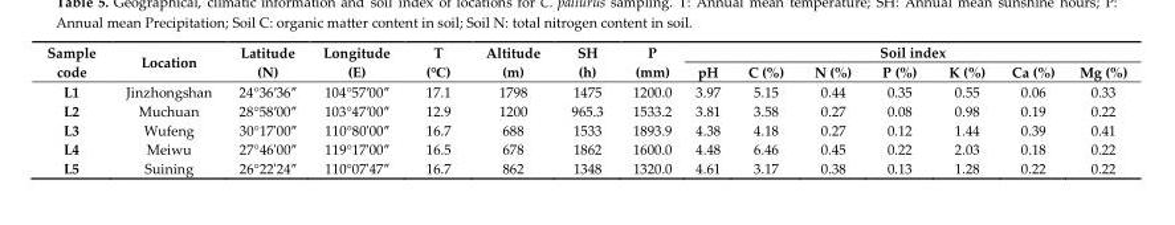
<table><thead><tr><td rowspan="2">Sample code</td><td rowspan="2">Location</td><td rowspan="2">Latitude (N)</td><td rowspan="2">Longitude (E)</td><td rowspan="2">T (℃)</td><td rowspan="2">Altitude (m)</td><td rowspan="2">SH (h)</td><td rowspan="2">P (mm)</td><td colspan="7">Soil index</td></tr><tr><td>pH</td><td>C (%)</td><td>N (%)</td><td>P (%)</td><td>K (%)</td><td>Ca (%)</td><td>Mg (%)</td></tr></thead><tbody><tr><td>L1</td><td>Jinzhongshan</td><td>24°36′36″</td><td>104°57′00″</td><td>17.1</td><td>1798</td><td>1475</td><td>1200.0</td><td>3.97</td><td>5.15</td><td>0.44</td><td>0.35</td><td>0.55</td><td>0.06</td><td>0.33</td></tr><tr><td>L2</td><td>Muchuan</td><td>28°58′00″</td><td>103°47′00″</td><td>12.9</td><td>1200</td><td>965.3</td><td>1533.2</td><td>3.81</td><td>3.58</td><td>0.27</td><td>0.08</td><td>0.98</td><td>0.19</td><td>0.22</td></tr><tr><td>L3</td><td>Wufeng</td><td>30°17&#x27;00″</td><td>110°80&#x27;00″</td><td>16.7</td><td>688</td><td>1533</td><td>1893.9</td><td>4.38</td><td>4.18</td><td>0.27</td><td>0.12</td><td>1.44</td><td>0.39</td><td>0.41</td></tr><tr><td>L4</td><td>Meiwu</td><td>27°46&#x27;00″</td><td>119°17&#x27;00″</td><td>16.5</td><td>678</td><td>1862</td><td>1600.0</td><td>4.48</td><td>6.46</td><td>0.45</td><td>0.22</td><td>2.03</td><td>0.18</td><td>0.22</td></tr><tr><td>L5</td><td>Suining</td><td>26°22&#x27;24″</td><td>110°07&#x27;47″</td><td>16.7</td><td>862</td><td>1348</td><td>1320.0</td><td>4.61</td><td>3.17</td><td>0.38</td><td>0.13</td><td>1.28</td><td>0.22</td><td>0.22</td></tr></tbody></table>